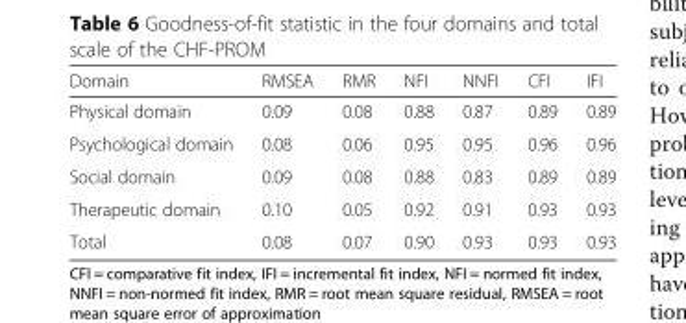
<table><thead><tr><td>Domain</td><td>RMSEA</td><td>RMR</td><td>NFI</td><td>NNFI</td><td>CFI</td><td>IFI</td></tr></thead><tbody><tr><td>Physical domain</td><td>0.09</td><td>0.08</td><td>0.88</td><td>0.87</td><td>0.89</td><td>0.89</td></tr><tr><td>Psychological domain</td><td>0.08</td><td>0.06</td><td>0.95</td><td>0.95</td><td>0.96</td><td>0.96</td></tr><tr><td>Social domain</td><td>0.09</td><td>0.08</td><td>0.88</td><td>0.83</td><td>0.89</td><td>0.89</td></tr><tr><td>Therapeutic domain</td><td>0.10</td><td>0.05</td><td>0.92</td><td>0.91</td><td>0.93</td><td>0.93</td></tr><tr><td>Total</td><td>0.08</td><td>0.07</td><td>0.90</td><td>0.93</td><td>0.93</td><td>0.93</td></tr></tbody></table>